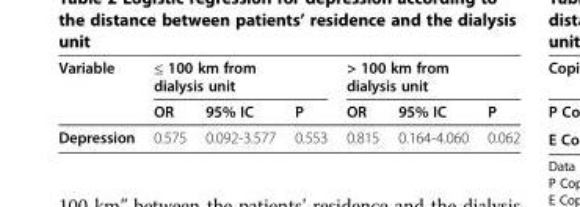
<table><thead><tr><td rowspan="2">Variable</td><td colspan="3">≤ 100 km from dialysis unit</td><td colspan="3">&gt; 100 km from dialysis unit</td></tr><tr><td>OR</td><td>95% IC</td><td>P</td><td>OR</td><td>95% IC</td><td>P</td></tr></thead><tbody><tr><td>Depression</td><td>0.575</td><td>0.092-3.577</td><td>0.553</td><td>0.815</td><td>0.164-4.060</td><td>0.062</td></tr></tbody></table>